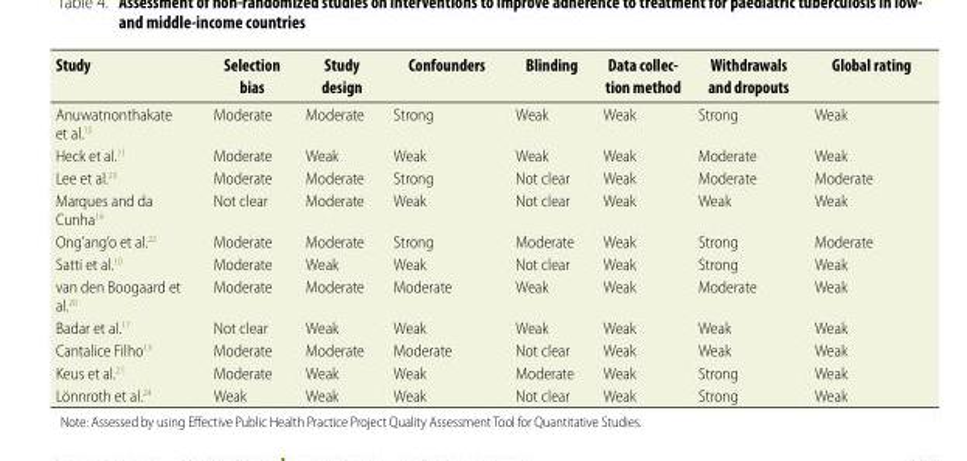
<table><thead><tr><td>Study</td><td>Selection bias</td><td>Study design</td><td>Confounders</td><td>Blinding</td><td>Data collec- tion method</td><td>Withdrawals and dropouts</td><td>Global rating</td></tr></thead><tbody><tr><td>Anuwatnonthakate et al.<sup>15</sup></td><td>Moderate</td><td>Moderate</td><td>Strong</td><td>Weak</td><td>Weak</td><td>Strong</td><td>Weak</td></tr><tr><td>Heck et al.<sup>11</sup></td><td>Moderate</td><td>Weak</td><td>Weak</td><td>Weak</td><td>Weak</td><td>Moderate</td><td>Weak</td></tr><tr><td>Lee et al.<sup>23</sup></td><td>Moderate</td><td>Moderate</td><td>Strong</td><td>Not clear</td><td>Weak</td><td>Moderate</td><td>Moderate</td></tr><tr><td>Marques and da Cunha<sup>14</sup></td><td>Not clear</td><td>Moderate</td><td>Weak</td><td>Not clear</td><td>Weak</td><td>Weak</td><td>Weak</td></tr><tr><td>Ong’ang’o et al.<sup>22</sup></td><td>Moderate</td><td>Moderate</td><td>Strong</td><td>Moderate</td><td>Weak</td><td>Strong</td><td>Moderate</td></tr><tr><td>Satti et al.<sup>10</sup></td><td>Moderate</td><td>Weak</td><td>Weak</td><td>Not clear</td><td>Weak</td><td>Strong</td><td>Weak</td></tr><tr><td>van den Boogaard et al.<sup>20</sup></td><td>Moderate</td><td>Moderate</td><td>Moderate</td><td>Weak</td><td>Weak</td><td>Moderate</td><td>Weak</td></tr><tr><td>Badar et al.<sup>17</sup></td><td>Not clear</td><td>Weak</td><td>Weak</td><td>Weak</td><td>Weak</td><td>Weak</td><td>Weak</td></tr><tr><td>Cantalice Filho<sup>13</sup></td><td>Moderate</td><td>Moderate</td><td>Moderate</td><td>Not clear</td><td>Weak</td><td>Weak</td><td>Weak</td></tr><tr><td>Keus et al.<sup>21</sup></td><td>Moderate</td><td>Weak</td><td>Weak</td><td>Moderate</td><td>Weak</td><td>Strong</td><td>Weak</td></tr><tr><td>Lönnroth et al.<sup>24</sup></td><td>Weak</td><td>Weak</td><td>Weak</td><td>Not clear</td><td>Weak</td><td>Strong</td><td>Weak</td></tr></tbody></table>